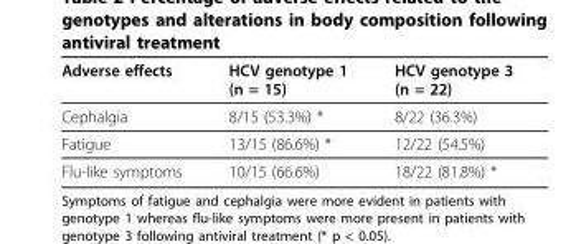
<table><thead><tr><td>Adverse effects</td><td>HCV genotype 1 (n = 15)</td><td>HCV genotype 3 (n = 22)</td></tr></thead><tbody><tr><td>Cephalgia</td><td>8/15 (53.3%) *</td><td>8/22 (36.3%)</td></tr><tr><td>Fatigue</td><td>13/15 (86.6%) *</td><td>12/22 (54.5%)</td></tr><tr><td>Flu-like symptoms</td><td>10/15 (66.6%)</td><td>18/22 (81.8%) *</td></tr></tbody></table>